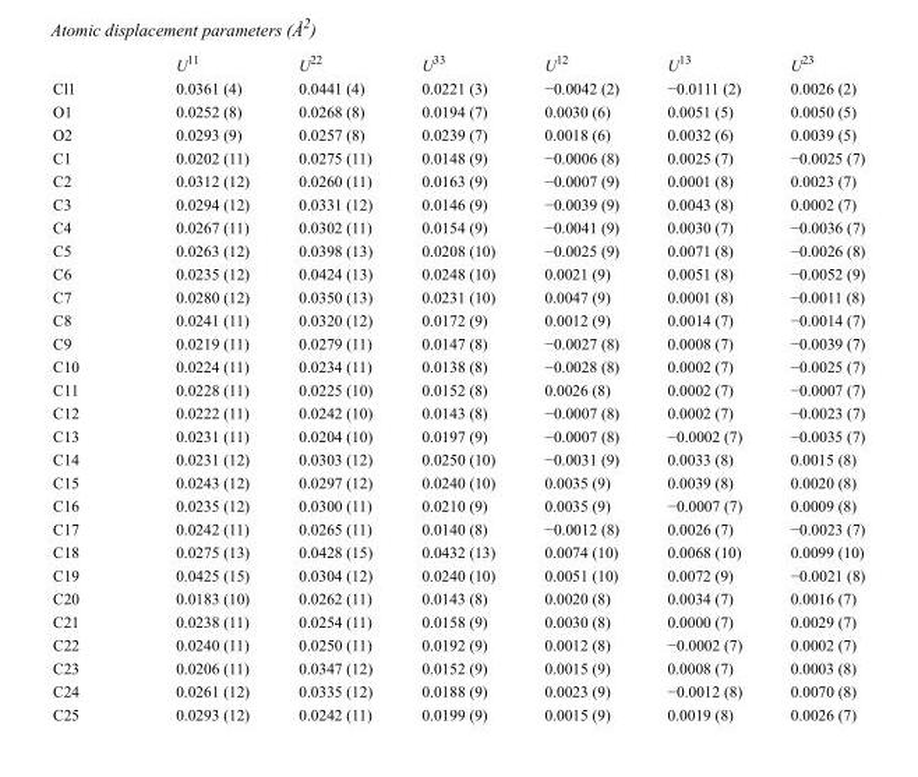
<table><thead><tr><td></td><td>U<sup>11</sup></td><td>U<sup>22</sup></td><td>U<sup>33</sup></td><td>U<sup>12</sup></td><td>U<sup>13</sup></td><td>U<sup>23</sup></td></tr></thead><tbody><tr><td>Cl1</td><td>0.0361 (4)</td><td>0.0441 (4)</td><td>0.0221 (3)</td><td>−0.0042 (2)</td><td>−0.0111 (2)</td><td>0.0026 (2)</td></tr><tr><td>O1</td><td>0.0252 (8)</td><td>0.0268 (8)</td><td>0.0194 (7)</td><td>0.0030 (6)</td><td>0.0051 (5)</td><td>0.0050 (5)</td></tr><tr><td>O2</td><td>0.0293 (9)</td><td>0.0257 (8)</td><td>0.0239 (7)</td><td>0.0018 (6)</td><td>0.0032 (6)</td><td>0.0039 (5)</td></tr><tr><td>C1</td><td>0.0202 (11)</td><td>0.0275 (11)</td><td>0.0148 (9)</td><td>−0.0006 (8)</td><td>0.0025 (7)</td><td>−0.0025 (7)</td></tr><tr><td>C2</td><td>0.0312 (12)</td><td>0.0260 (11)</td><td>0.0163 (9)</td><td>−0.0007 (9)</td><td>0.0001 (8)</td><td>0.0023 (7)</td></tr><tr><td>C3</td><td>0.0294 (12)</td><td>0.0331 (12)</td><td>0.0146 (9)</td><td>−0.0039 (9)</td><td>0.0043 (8)</td><td>0.0002 (7)</td></tr><tr><td>C4</td><td>0.0267 (11)</td><td>0.0302 (11)</td><td>0.0154 (9)</td><td>−0.0041 (9)</td><td>0.0030 (7)</td><td>−0.0036 (7)</td></tr><tr><td>C5</td><td>0.0263 (12)</td><td>0.0398 (13)</td><td>0.0208 (10)</td><td>−0.0025 (9)</td><td>0.0071 (8)</td><td>−0.0026 (8)</td></tr><tr><td>C6</td><td>0.0235 (12)</td><td>0.0424 (13)</td><td>0.0248 (10)</td><td>0.0021 (9)</td><td>0.0051 (8)</td><td>−0.0052 (9)</td></tr><tr><td>C7</td><td>0.0280 (12)</td><td>0.0350 (13)</td><td>0.0231 (10)</td><td>0.0047 (9)</td><td>0.0001 (8)</td><td>−0.0011 (8)</td></tr><tr><td>C8</td><td>0.0241 (11)</td><td>0.0320 (12)</td><td>0.0172 (9)</td><td>0.0012 (9)</td><td>0.0014 (7)</td><td>−0.0014 (7)</td></tr><tr><td>C9</td><td>0.0219 (11)</td><td>0.0279 (11)</td><td>0.0147 (8)</td><td>−0.0027 (8)</td><td>0.0008 (7)</td><td>−0.0039 (7)</td></tr><tr><td>C10</td><td>0.0224 (11)</td><td>0.0234 (11)</td><td>0.0138 (8)</td><td>−0.0028 (8)</td><td>0.0002 (7)</td><td>−0.0025 (7)</td></tr><tr><td>C11</td><td>0.0228 (11)</td><td>0.0225 (10)</td><td>0.0152 (8)</td><td>0.0026 (8)</td><td>0.0002 (7)</td><td>−0.0007 (7)</td></tr><tr><td>C12</td><td>0.0222 (11)</td><td>0.0242 (10)</td><td>0.0143 (8)</td><td>−0.0007 (8)</td><td>0.0002 (7)</td><td>−0.0023 (7)</td></tr><tr><td>C13</td><td>0.0231 (11)</td><td>0.0204 (10)</td><td>0.0197 (9)</td><td>−0.0007 (8)</td><td>−0.0002 (7)</td><td>−0.0035 (7)</td></tr><tr><td>C14</td><td>0.0231 (12)</td><td>0.0303 (12)</td><td>0.0250 (10)</td><td>−0.0031 (9)</td><td>0.0033 (8)</td><td>0.0015 (8)</td></tr><tr><td>C15</td><td>0.0243 (12)</td><td>0.0297 (12)</td><td>0.0240 (10)</td><td>0.0035 (9)</td><td>0.0039 (8)</td><td>0.0020 (8)</td></tr><tr><td>C16</td><td>0.0235 (12)</td><td>0.0300 (11)</td><td>0.0210 (9)</td><td>0.0035 (9)</td><td>−0.0007 (7)</td><td>0.0009 (8)</td></tr><tr><td>C17</td><td>0.0242 (11)</td><td>0.0265 (11)</td><td>0.0140 (8)</td><td>−0.0012 (8)</td><td>0.0026 (7)</td><td>−0.0023 (7)</td></tr><tr><td>C18</td><td>0.0275 (13)</td><td>0.0428 (15)</td><td>0.0432 (13)</td><td>0.0074 (10)</td><td>0.0068 (10)</td><td>0.0099 (10)</td></tr><tr><td>C19</td><td>0.0425 (15)</td><td>0.0304 (12)</td><td>0.0240 (10)</td><td>0.0051 (10)</td><td>0.0072 (9)</td><td>−0.0021 (8)</td></tr><tr><td>C20</td><td>0.0183 (10)</td><td>0.0262 (11)</td><td>0.0143 (8)</td><td>0.0020 (8)</td><td>0.0034 (7)</td><td>0.0016 (7)</td></tr><tr><td>C21</td><td>0.0238 (11)</td><td>0.0254 (11)</td><td>0.0158 (9)</td><td>0.0030 (8)</td><td>0.0000 (7)</td><td>0.0029 (7)</td></tr><tr><td>C22</td><td>0.0240 (11)</td><td>0.0250 (11)</td><td>0.0192 (9)</td><td>0.0012 (8)</td><td>−0.0002 (7)</td><td>0.0002 (7)</td></tr><tr><td>C23</td><td>0.0206 (11)</td><td>0.0347 (12)</td><td>0.0152 (9)</td><td>0.0015 (9)</td><td>0.0008 (7)</td><td>0.0003 (8)</td></tr><tr><td>C24</td><td>0.0261 (12)</td><td>0.0335 (12)</td><td>0.0188 (9)</td><td>0.0023 (9)</td><td>−0.0012 (8)</td><td>0.0070 (8)</td></tr><tr><td>C25</td><td>0.0293 (12)</td><td>0.0242 (11)</td><td>0.0199 (9)</td><td>0.0015 (9)</td><td>0.0019 (8)</td><td>0.0026 (7)</td></tr></tbody></table>